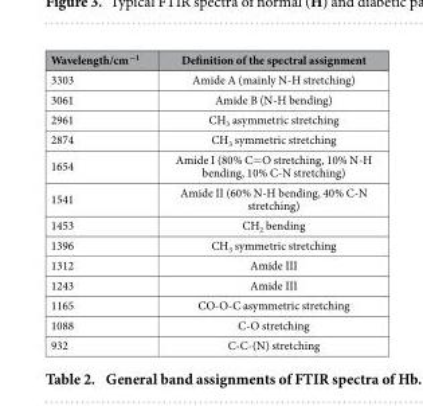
<table><thead><tr><td>Wavelength/cm<sup>−1</sup></td><td>Definition of the spectral assignment</td></tr></thead><tbody><tr><td>3303</td><td>Amide A (mainly N-H stretching)</td></tr><tr><td>3061</td><td>Amide B (N-H bending)</td></tr><tr><td>2961</td><td>CH<sub>3</sub> asymmetric stretching</td></tr><tr><td>2874</td><td>CH<sub>3</sub> symmetric stretching</td></tr><tr><td>1654</td><td>Amide I (80% C= O stretching, 10% N-H bending, 10% C-N stretching)</td></tr><tr><td>1541</td><td>Amide II (60% N-H bending, 40% C-N stretching)</td></tr><tr><td>1453</td><td>CH<sub>2</sub> bending</td></tr><tr><td>1396</td><td>CH<sub>3</sub> symmetric stretching</td></tr><tr><td>1312</td><td>Amide III</td></tr><tr><td>1243</td><td>Amide III</td></tr><tr><td>1165</td><td>CO-O-C asymmetric stretching</td></tr><tr><td>1088</td><td>C-O stretching</td></tr><tr><td>932</td><td>C-C-(N) stretching</td></tr></tbody></table>